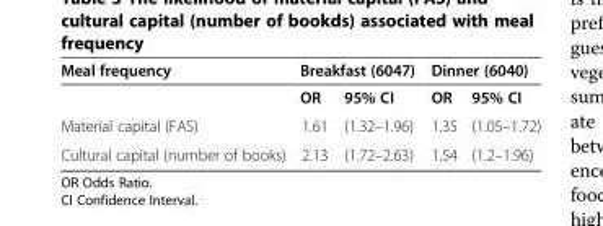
<table><thead><tr><td rowspan="2">Meal frequency</td><td colspan="2">Breakfast (6047)</td><td colspan="2">Dinner (6040)</td></tr><tr><td>OR</td><td>95% CI</td><td>OR</td><td>95% CI</td></tr></thead><tbody><tr><td>Material capital (FAS)</td><td>1.61</td><td>(1.32–1.96)</td><td>1.35</td><td>(1.05–1.72)</td></tr><tr><td>Cultural capital (number of books)</td><td>2.13</td><td>(1.72–2.63)</td><td>1.54</td><td>(1.2–1.96)</td></tr></tbody></table>